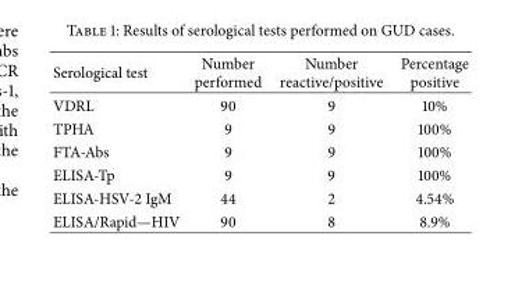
<table><thead><tr><td>Serological test</td><td>Number performed</td><td>Number reactive/positive</td><td>Percentage positive</td></tr></thead><tbody><tr><td>VDRL</td><td>90</td><td>9</td><td>10%</td></tr><tr><td>TPHA</td><td>9</td><td>9</td><td>100%</td></tr><tr><td>FTA-Abs</td><td>9</td><td>9</td><td>100%</td></tr><tr><td>ELISA-Tp</td><td>9</td><td>9</td><td>100%</td></tr><tr><td>ELISA-HSV-2 IgM</td><td>44</td><td>2</td><td>4.54%</td></tr><tr><td>ELISA/Rapid—HIV</td><td>90</td><td>8</td><td>8.9%</td></tr></tbody></table>